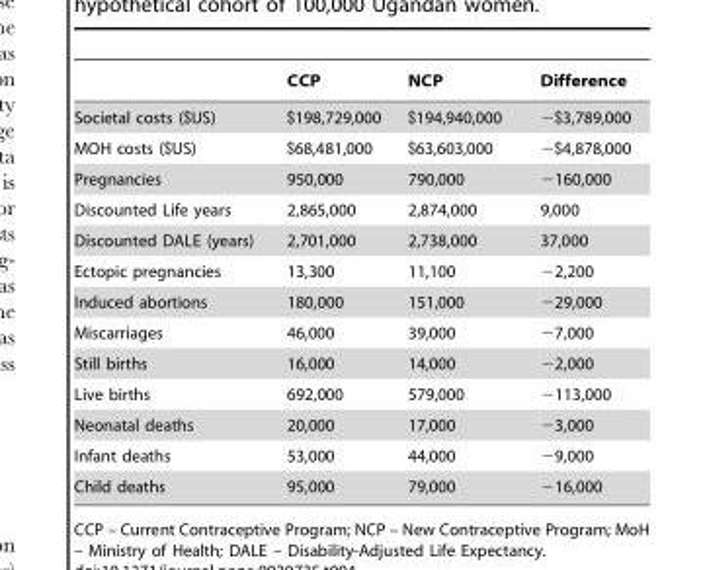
<table><thead><tr><td></td><td>CCP</td><td>NCP</td><td>Difference</td></tr></thead><tbody><tr><td>Societal costs ($US)</td><td>$198,729,000</td><td>$194,940,000</td><td>−$3,789,000</td></tr><tr><td>MOH costs ($US)</td><td>$68,481,000</td><td>$63,603,000</td><td>−$4,878,000</td></tr><tr><td>Pregnancies</td><td>950,000</td><td>790,000</td><td>−160,000</td></tr><tr><td>Discounted Life years</td><td>2,865,000</td><td>2,874,000</td><td>9,000</td></tr><tr><td>Discounted DALE (years)</td><td>2,701,000</td><td>2,738,000</td><td>37,000</td></tr><tr><td>Ectopic pregnancies</td><td>13,300</td><td>11,100</td><td>−2,200</td></tr><tr><td>Induced abortions</td><td>180,000</td><td>151,000</td><td>−29,000</td></tr><tr><td>Miscarriages</td><td>46,000</td><td>39,000</td><td>−7,000</td></tr><tr><td>Still births</td><td>16,000</td><td>14,000</td><td>−2,000</td></tr><tr><td>Live births</td><td>692,000</td><td>579,000</td><td>−113,000</td></tr><tr><td>Neonatal deaths</td><td>20,000</td><td>17,000</td><td>−3,000</td></tr><tr><td>Infant deaths</td><td>53,000</td><td>44,000</td><td>−9,000</td></tr><tr><td>Child deaths</td><td>95,000</td><td>79,000</td><td>−16,000</td></tr></tbody></table>